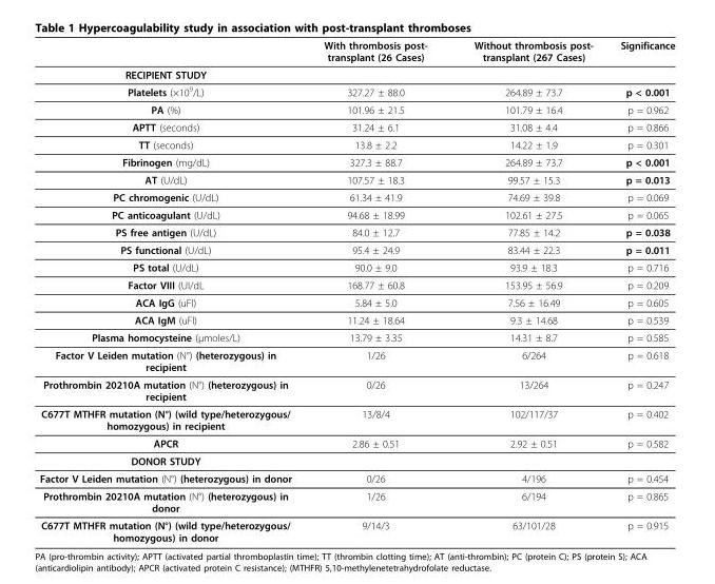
<table><thead><tr><td></td><td>With thrombosis post- transplant (26 Cases)</td><td>Without thrombosis post- transplant (267 Cases)</td><td>Significance</td></tr></thead><tbody><tr><td colspan="4">RECIPIENT STUDY</td></tr><tr><td>Platelets (×10<sup>9</sup>/L)</td><td>327.27 ± 88.0</td><td>264.89 ± 73.7</td><td>p &lt; 0.001</td></tr><tr><td>PA (%)</td><td>101.96 ± 21.5</td><td>101.79 ± 16.4</td><td>p = 0.962</td></tr><tr><td>APTT (seconds)</td><td>31.24 ± 6.1</td><td>31.08 ± 4.4</td><td>p = 0.866</td></tr><tr><td>TT (seconds)</td><td>13.8 ± 2.2</td><td>14.22 ± 1.9</td><td>p = 0.301</td></tr><tr><td>Fibrinogen (mg/dL)</td><td>327.3 ± 88.7</td><td>264.89 ± 73.7</td><td>p &lt; 0.001</td></tr><tr><td>AT (U/dL)</td><td>107.57 ± 18.3</td><td>99.57 ± 15.3</td><td>p = 0.013</td></tr><tr><td>PC chromogenic (U/dL)</td><td>61.34 ± 41.9</td><td>74.69 ± 39.8</td><td>p = 0.069</td></tr><tr><td>PC anticoagulant (U/dL)</td><td>94.68 ± 18.99</td><td>102.61 ± 27.5</td><td>p = 0.065</td></tr><tr><td>PS free antigen (U/dL)</td><td>84.0 ± 12.7</td><td>77.85 ± 14.2</td><td>p = 0.038</td></tr><tr><td>PS functional (U/dL)</td><td>95.4 ± 24.9</td><td>83.44 ± 22.3</td><td>p = 0.011</td></tr><tr><td>PS total (U/dL)</td><td>90.0 ± 9.0</td><td>93.9 ± 18.3</td><td>p = 0.716</td></tr><tr><td>Factor VIII (UI/dL</td><td>168.77 ± 60.8</td><td>153.95 ± 56.9</td><td>p = 0.209</td></tr><tr><td>ACA IgG (uFl)</td><td>5.84 ± 5.0</td><td>7.56 ± 16.49</td><td>p = 0.605</td></tr><tr><td>ACA IgM (uFl)</td><td>11.24 ± 18.64</td><td>9.3 ± 14.68</td><td>p = 0.539</td></tr><tr><td>Plasma homocysteine (μmoles/L)</td><td>13.79 ± 3.35</td><td>14.31 ± 8.7</td><td>p = 0.585</td></tr><tr><td>Factor V Leiden mutation (N°) (heterozygous) in recipient</td><td>1/26</td><td>6/264</td><td>p = 0.618</td></tr><tr><td>Prothrombin 20210A mutation (N°) (heterozygous) in recipient</td><td>0/26</td><td>13/264</td><td>p = 0.247</td></tr><tr><td>C677T MTHFR mutation (N°) (wild type/heterozygous/ homozygous) in recipient</td><td>13/8/4</td><td>102/117/37</td><td>p = 0.402</td></tr><tr><td>APCR</td><td>2.86 ± 0.51</td><td>2.92 ± 0.51</td><td>p = 0.582</td></tr><tr><td colspan="4">DONOR STUDY</td></tr><tr><td>Factor V Leiden mutation (N°) (heterozygous) in donor</td><td>0/26</td><td>4/196</td><td>p = 0.454</td></tr><tr><td>Prothrombin 20210A mutation (N°) (heterozygous) in donor</td><td>1/26</td><td>6/194</td><td>p = 0.865</td></tr><tr><td>C677T MTHFR mutation (N°) (wild type/heterozygous/ homozygous) in donor</td><td>9/14/3</td><td>63/101/28</td><td>p = 0.915</td></tr></tbody></table>